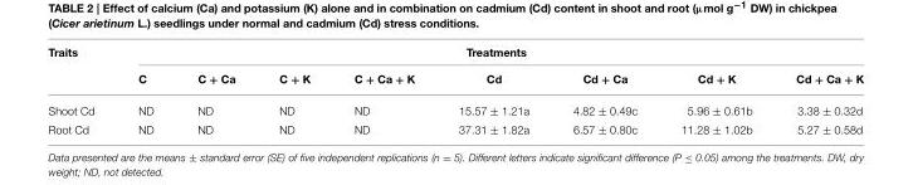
<table><thead><tr><td rowspan="2">Traits</td><td colspan="8">Treatments</td></tr><tr><td>C</td><td>C + Ca</td><td>C + K</td><td>C + Ca + K</td><td>Cd</td><td>Cd + Ca</td><td>Cd + K</td><td>Cd + Ca + K</td></tr></thead><tbody><tr><td>Shoot Cd</td><td>ND</td><td>ND</td><td>ND</td><td>ND</td><td>15.57 ± 1.21a</td><td>4.82 ± 0.49c</td><td>5.96 ± 0.61b</td><td>3.38 ± 0.32d</td></tr><tr><td>Root Cd</td><td>ND</td><td>ND</td><td>ND</td><td>ND</td><td>37.31 ± 1.82a</td><td>6.57 ± 0.80c</td><td>11.28 ± 1.02b</td><td>5.27 ± 0.58d</td></tr></tbody></table>